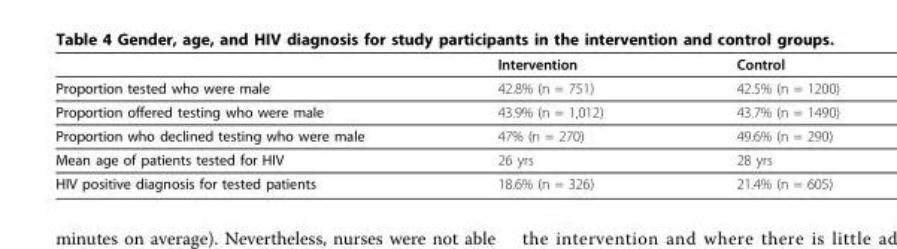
<table><thead><tr><td></td><td>Intervention</td><td>Control</td></tr></thead><tbody><tr><td>Proportion tested who were male</td><td>42.8% (n = 751)</td><td>42.5% (n = 1200)</td></tr><tr><td>Proportion offered testing who were male</td><td>43.9% (n = 1,012)</td><td>43.7% (n = 1490)</td></tr><tr><td>Proportion who declined testing who were male</td><td>47% (n = 270)</td><td>49.6% (n = 290)</td></tr><tr><td>Mean age of patients tested for HIV</td><td>26 yrs</td><td>28 yrs</td></tr><tr><td>HIV positive diagnosis for tested patients</td><td>18.6% (n = 326)</td><td>21.4% (n = 605)</td></tr></tbody></table>